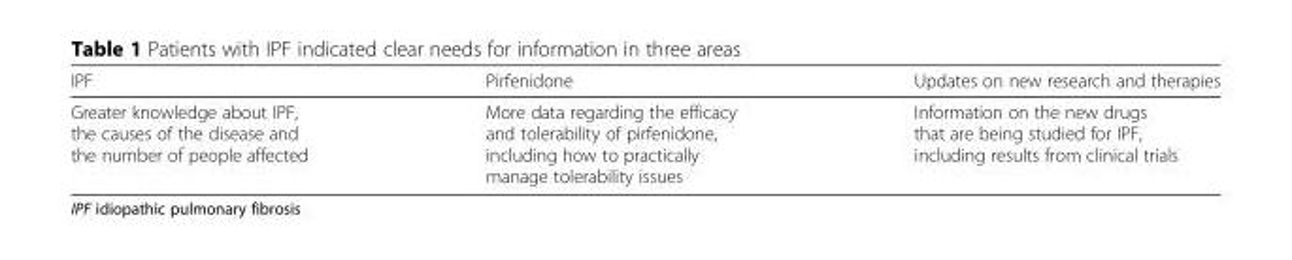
<table><thead><tr><td>IPF</td><td>Pirfenidone</td><td>Updates on new research and therapies</td></tr></thead><tbody><tr><td>Greater knowledge about IPF, the causes of the disease and the number of people affected</td><td>More data regarding the efficacy and tolerability of pirfenidone, including how to practically manage tolerability issues</td><td>Information on the new drugs that are being studied for IPF, including results from clinical trials</td></tr></tbody></table>